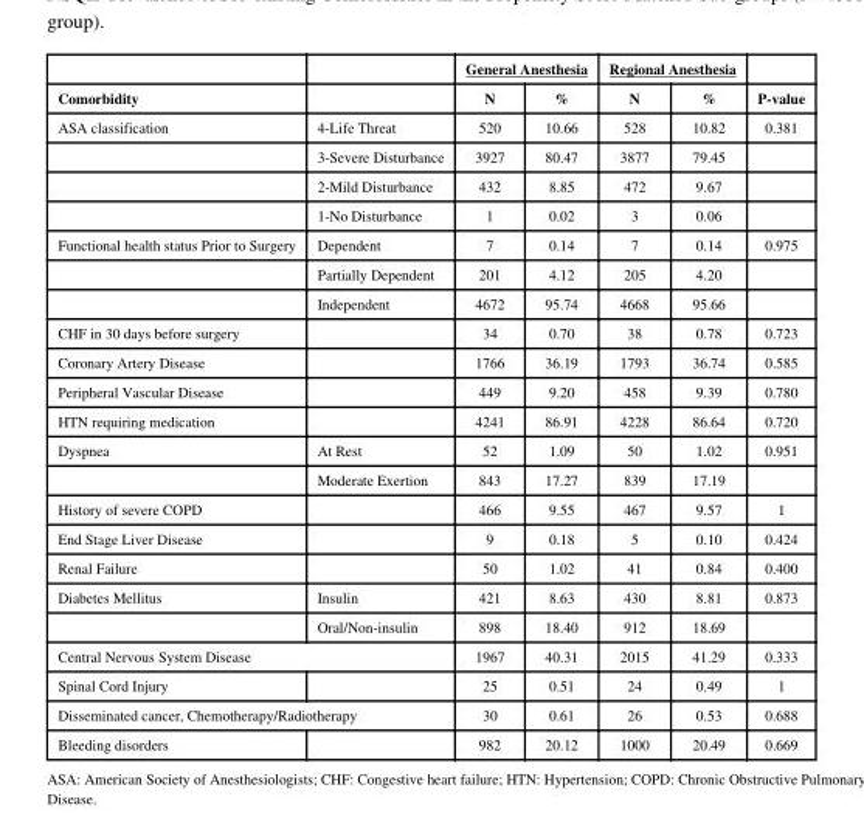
<table><thead><tr><td rowspan="2">Comorbidity</td><td rowspan="2"></td><td colspan="2">General Anesthesia</td><td colspan="2">Regional Anesthesia</td><td rowspan="2">P-value</td></tr><tr><td>N</td><td>%</td><td>N</td><td>%</td></tr></thead><tbody><tr><td rowspan="4">ASA classification</td><td>4-Life Threat</td><td>520</td><td>10.66</td><td>528</td><td>10.82</td><td>0.381</td></tr><tr><td>3-Severe Disturbance</td><td>3927</td><td>80.47</td><td>3877</td><td>79.45</td><td></td></tr><tr><td>2-Mild Disturbance</td><td>432</td><td>8.85</td><td>472</td><td>9.67</td><td></td></tr><tr><td>1-No Disturbance</td><td>1</td><td>0.02</td><td>3</td><td>0.06</td><td></td></tr><tr><td rowspan="3">Functional health status Prior to Surgery</td><td>Dependent</td><td>7</td><td>0.14</td><td>7</td><td>0.14</td><td>0.975</td></tr><tr><td>Partially Dependent</td><td>201</td><td>4.12</td><td>205</td><td>4.20</td><td></td></tr><tr><td>Independent</td><td>4672</td><td>95.74</td><td>4668</td><td>95.66</td><td></td></tr><tr><td>CHF in 30 days before surgery</td><td></td><td>34</td><td>0.70</td><td>38</td><td>0.78</td><td>0.723</td></tr><tr><td>Coronary Artery Disease</td><td></td><td>1766</td><td>36.19</td><td>1793</td><td>36.74</td><td>0.585</td></tr><tr><td>Peripheral Vascular Disease</td><td></td><td>449</td><td>9.20</td><td>458</td><td>9.39</td><td>0.780</td></tr><tr><td>HTN requiring medication</td><td></td><td>4241</td><td>86.91</td><td>4228</td><td>86.64</td><td>0.720</td></tr><tr><td rowspan="2">Dyspnea</td><td>At Rest</td><td>52</td><td>1.09</td><td>50</td><td>1.02</td><td>0.951</td></tr><tr><td>Moderate Exertion</td><td>843</td><td>17.27</td><td>839</td><td>17.19</td><td></td></tr><tr><td>History of severe COPD</td><td></td><td>466</td><td>9.55</td><td>467</td><td>9.57</td><td>1</td></tr><tr><td>End Stage Liver Disease</td><td></td><td>9</td><td>0.18</td><td>5</td><td>0.10</td><td>0.424</td></tr><tr><td>Renal Failure</td><td></td><td>50</td><td>1.02</td><td>41</td><td>0.84</td><td>0.400</td></tr><tr><td rowspan="2">Diabetes Mellitus</td><td>Insulin</td><td>421</td><td>8.63</td><td>430</td><td>8.81</td><td>0.873</td></tr><tr><td>Oral/Non-insulin</td><td>898</td><td>18.40</td><td>912</td><td>18.69</td><td></td></tr><tr><td colspan="2">Central Nervous System Disease</td><td>1967</td><td>40.31</td><td>2015</td><td>41.29</td><td>0.333</td></tr><tr><td>Spinal Cord Injury</td><td></td><td>25</td><td>0.51</td><td>24</td><td>0.49</td><td>1</td></tr><tr><td colspan="2">Disseminated cancer, Chemotherapy/Radiotherapy</td><td>30</td><td>0.61</td><td>26</td><td>0.53</td><td>0.688</td></tr><tr><td>Bleeding disorders</td><td></td><td>982</td><td>20.12</td><td>1000</td><td>20.49</td><td>0.669</td></tr></tbody></table>